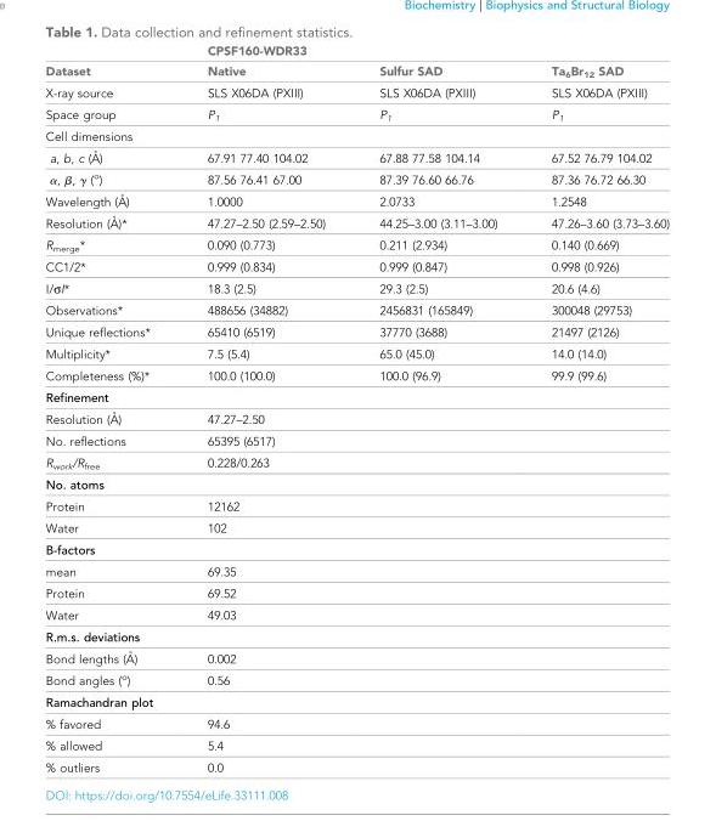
<table><thead><tr><td rowspan="2">Dataset</td><td colspan="3">CPSF160-WDR33</td></tr><tr><td>Native</td><td>Sulfur SAD</td><td>Ta<sub>6</sub>Br<sub>12</sub> SAD</td></tr></thead><tbody><tr><td>X-ray source</td><td>SLS X06DA (PXIII)</td><td>SLS X06DA (PXIII)</td><td>SLS X06DA (PXIII)</td></tr><tr><td>Space group</td><td>P<sub>1</sub></td><td>P<sub>1</sub></td><td>P<sub>1</sub></td></tr><tr><td colspan="4">Cell dimensions</td></tr><tr><td>a, b, c (A˚ )</td><td>67.91 77.40 104.02</td><td>67.88 77.58 104.14</td><td>67.52 76.79 104.02</td></tr><tr><td>α, β, γ (<sup>o</sup>)</td><td>87.56 76.41 67.00</td><td>87.39 76.60 66.76</td><td>87.36 76.72 66.30</td></tr><tr><td>Wavelength (A˚ )</td><td>1.0000</td><td>2.0733</td><td>1.2548</td></tr><tr><td>Resolution (A˚ )*</td><td>47.27–2.50 (2.59–2.50)</td><td>44.25–3.00 (3.11–3.00)</td><td>47.26–3.60 (3.73–3.60)</td></tr><tr><td>R<sub>merge</sub>*</td><td>0.090 (0.773)</td><td>0.211 (2.934)</td><td>0.140 (0.669)</td></tr><tr><td>CC1/2*</td><td>0.999 (0.834)</td><td>0.999 (0.847)</td><td>0.998 (0.926)</td></tr><tr><td>I/σI*</td><td>18.3 (2.5)</td><td>29.3 (2.5)</td><td>20.6 (4.6)</td></tr><tr><td>Observations*</td><td>488656 (34882)</td><td>2456831 (165849)</td><td>300048 (29753)</td></tr><tr><td>Unique reflections*</td><td>65410 (6519)</td><td>37770 (3688)</td><td>21497 (2126)</td></tr><tr><td>Multiplicity*</td><td>7.5 (5.4)</td><td>65.0 (45.0)</td><td>14.0 (14.0)</td></tr><tr><td>Completeness (%)*</td><td>100.0 (100.0)</td><td>100.0 (96.9)</td><td>99.9 (99.6)</td></tr><tr><td colspan="4">Refinement</td></tr><tr><td>Resolution (A˚ )</td><td>47.27–2.50</td><td></td><td></td></tr><tr><td>No. reflections</td><td>65395 (6517)</td><td></td><td></td></tr><tr><td>R<sub>work</sub>/R<sub>free</sub></td><td>0.228/0.263</td><td></td><td></td></tr><tr><td colspan="4">No. atoms</td></tr><tr><td>Protein</td><td>12162</td><td></td><td></td></tr><tr><td>Water</td><td>102</td><td></td><td></td></tr><tr><td colspan="4">B-factors</td></tr><tr><td>mean</td><td>69.35</td><td></td><td></td></tr><tr><td>Protein</td><td>69.52</td><td></td><td></td></tr><tr><td>Water</td><td>49.03</td><td></td><td></td></tr><tr><td colspan="4">R.m.s. deviations</td></tr><tr><td>Bond lengths (A˚ )</td><td>0.002</td><td></td><td></td></tr><tr><td>Bond angles (<sup>o</sup>)</td><td>0.56</td><td></td><td></td></tr><tr><td colspan="4">Ramachandran plot</td></tr><tr><td>% favored</td><td>94.6</td><td></td><td></td></tr><tr><td>% allowed</td><td>5.4</td><td></td><td></td></tr><tr><td>% outliers</td><td>0.0</td><td></td><td></td></tr></tbody></table>